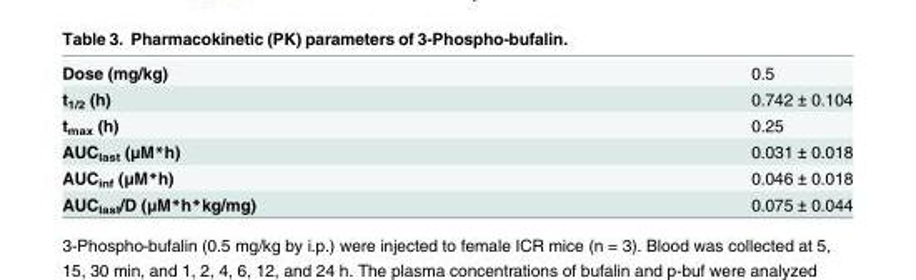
<table><tbody><tr><td>Dose (mg/kg)</td><td>0.5</td></tr><tr><td>t<sub>1/2</sub> (h)</td><td>0.742 ± 0.104</td></tr><tr><td>t<sub>max</sub> (h)</td><td>0.25</td></tr><tr><td>AUC<sub>last</sub> (μM*h)</td><td>0.031 ± 0.018</td></tr><tr><td>AUC<sub>inf</sub> (μM*h)</td><td>0.046 ± 0.018</td></tr><tr><td>AUC<sub>last</sub>/D (μM*h*kg/mg)</td><td>0.075 ± 0.044</td></tr></tbody></table>